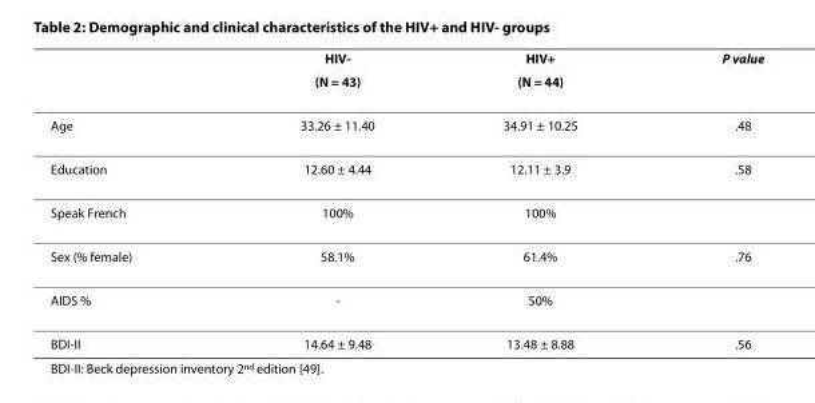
<table><thead><tr><td rowspan="2"></td><td rowspan="2">HIV- (N = 43)</td><td rowspan="2">HIV+ (N = 44)</td><td rowspan="2">P value</td></tr><tr></tr></thead><tbody><tr><td>Age</td><td>33.26 ± 11.40</td><td>34.91 ± 10.25</td><td>.48</td></tr><tr><td>Education</td><td>12.60 ± 4.44</td><td>12.11 ± 3.9</td><td>.58</td></tr><tr><td>Speak French</td><td>100%</td><td>100%</td><td></td></tr><tr><td>Sex (% female)</td><td>58.1%</td><td>61.4%</td><td>.76</td></tr><tr><td>AIDS %</td><td>-</td><td>50%</td><td></td></tr><tr><td>BDI-II</td><td>14.64 ± 9.48</td><td>13.48 ± 8.88</td><td>.56</td></tr></tbody></table>